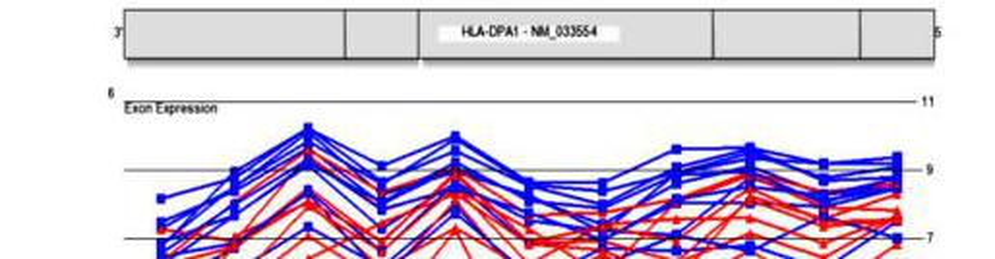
<table><thead><tr><td>Gene Symbol</td><td>Region</td><td>pH</td><td>Sex</td><td>Age</td><td>Diagnosis</td><td>Region by Diagnosis</td></tr></thead><tbody><tr><td>CD74</td><td>2.71 × 10<sup>−22</sup></td><td>8.20 × 10<sup>−1</sup></td><td>6.71 × 10<sup>−1</sup></td><td>5.01 × 10<sup>−2</sup></td><td>3.61 × 10<sup>−5</sup></td><td>5.84 × 10<sup>−3</sup></td></tr><tr><td>HLA-DRB1</td><td>3.48 × 10<sup>−1</sup></td><td>5.55 × 10<sup>−2</sup></td><td>1.08 × 10<sup>−3</sup></td><td>4.42 × 10<sup>−5</sup></td><td>7.80 × 10<sup>−2</sup></td><td>6.87 × 10<sup>−1</sup></td></tr><tr><td>HLA-DPA1</td><td>7.93 × 10−2°</td><td>3.80 × 10<sup>−1</sup></td><td>2.77 × 10<sup>−1</sup></td><td>1.79 × 10<sup>−4</sup></td><td>1.73 × 10<sup>−7</sup></td><td>2.55 × 10<sup>−1</sup></td></tr></tbody></table>